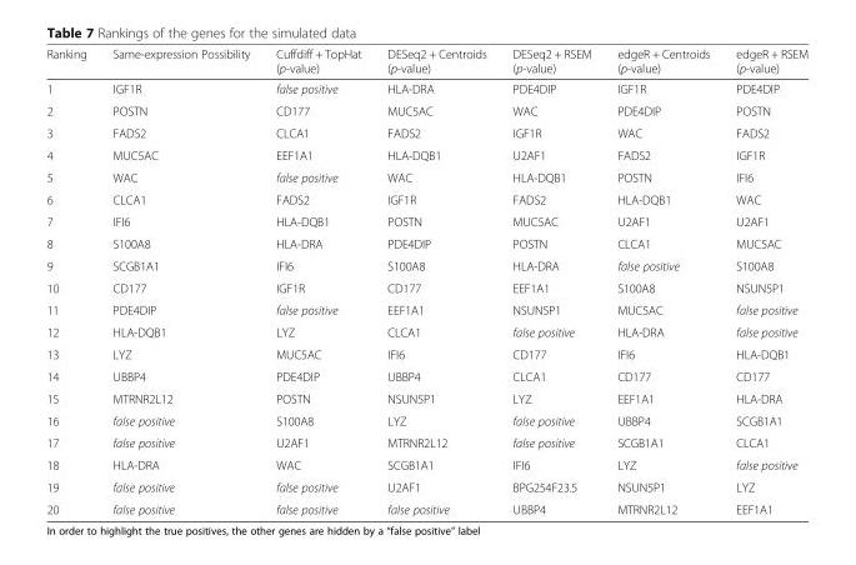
<table><thead><tr><td>Ranking</td><td>Same-expression Possibility</td><td>Cuffdiff + TopHat (p-value)</td><td>DESeq2 + Centroids (p-value)</td><td>DESeq2 + RSEM (p-value)</td><td>edgeR + Centroids (p-value)</td><td>edgeR + RSEM (p-value)</td></tr></thead><tbody><tr><td>1</td><td>IGF1R</td><td>false positive</td><td>HLA-DRA</td><td>PDE4DIP</td><td>IGF1R</td><td>PDE4DIP</td></tr><tr><td>2</td><td>POSTN</td><td>CD177</td><td>MUC5AC</td><td>WAC</td><td>PDE4DIP</td><td>POSTN</td></tr><tr><td>3</td><td>FADS2</td><td>CLCA1</td><td>FADS2</td><td>IGF1R</td><td>WAC</td><td>FADS2</td></tr><tr><td>4</td><td>MUC5AC</td><td>EEF1A1</td><td>HLA-DQB1</td><td>U2AF1</td><td>FADS2</td><td>IGF1R</td></tr><tr><td>5</td><td>WAC</td><td>false positive</td><td>WAC</td><td>HLA-DQB1</td><td>POSTN</td><td>IFI6</td></tr><tr><td>6</td><td>CLCA1</td><td>FADS2</td><td>IGF1R</td><td>FADS2</td><td>HLA-DQB1</td><td>WAC</td></tr><tr><td>7</td><td>IFI6</td><td>HLA-DQB1</td><td>POSTN</td><td>MUC5AC</td><td>U2AF1</td><td>U2AF1</td></tr><tr><td>8</td><td>S100A8</td><td>HLA-DRA</td><td>PDE4DIP</td><td>POSTN</td><td>CLCA1</td><td>MUC5AC</td></tr><tr><td>9</td><td>SCGB1A1</td><td>IFI6</td><td>S100A8</td><td>HLA-DRA</td><td>false positive</td><td>S100A8</td></tr><tr><td>10</td><td>CD177</td><td>IGF1R</td><td>CD177</td><td>EEF1A1</td><td>S100A8</td><td>NSUN5P1</td></tr><tr><td>11</td><td>PDE4DIP</td><td>false positive</td><td>EEF1A1</td><td>NSUN5P1</td><td>MUC5AC</td><td>false positive</td></tr><tr><td>12</td><td>HLA-DQB1</td><td>LYZ</td><td>CLCA1</td><td>false positive</td><td>HLA-DRA</td><td>false positive</td></tr><tr><td>13</td><td>LYZ</td><td>MUC5AC</td><td>IFI6</td><td>CD177</td><td>IFI6</td><td>HLA-DQB1</td></tr><tr><td>14</td><td>UBBP4</td><td>PDE4DIP</td><td>UBBP4</td><td>CLCA1</td><td>CD177</td><td>CD177</td></tr><tr><td>15</td><td>MTRNR2L12</td><td>POSTN</td><td>NSUN5P1</td><td>LYZ</td><td>EEF1A1</td><td>HLA-DRA</td></tr><tr><td>16</td><td>false positive</td><td>S100A8</td><td>LYZ</td><td>false positive</td><td>UBBP4</td><td>SCGB1A1</td></tr><tr><td>17</td><td>false positive</td><td>U2AF1</td><td>MTRNR2L12</td><td>false positive</td><td>SCGB1A1</td><td>CLCA1</td></tr><tr><td>18</td><td>HLA-DRA</td><td>WAC</td><td>SCGB1A1</td><td>IFI6</td><td>LYZ</td><td>false positive</td></tr><tr><td>19</td><td>false positive</td><td>false positive</td><td>U2AF1</td><td>BPG254F23.5</td><td>NSUN5P1</td><td>LYZ</td></tr><tr><td>20</td><td>false positive</td><td>false positive</td><td>false positive</td><td>UBBP4</td><td>MTRNR2L12</td><td>EEF1A1</td></tr></tbody></table>